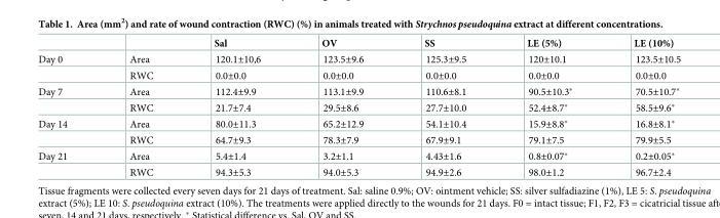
<table><thead><tr><td></td><td></td><td>Sal</td><td>OV</td><td>SS</td><td>LE (5%)</td><td>LE (10%)</td></tr></thead><tbody><tr><td rowspan="2">Day 0</td><td>Area</td><td>120.1±10,6</td><td>123.5±9.6</td><td>125.3±9.5</td><td>120±10.1</td><td>123.5±10.5</td></tr><tr><td>RWC</td><td>0.0±0.0</td><td>0.0±0.0</td><td>0.0±0.0</td><td>0.0±0.0</td><td>0.0±0.0</td></tr><tr><td rowspan="2">Day 7</td><td>Area</td><td>112.4±9.9</td><td>113.1±9.9</td><td>110.6±8.1</td><td>90.5±10.3*</td><td>70.5±10.7*</td></tr><tr><td>RWC</td><td>21.7±7.4</td><td>29.5±8.6</td><td>27.7±10.0</td><td>52.4±8.7*</td><td>58.5±9.6*</td></tr><tr><td rowspan="2">Day 14</td><td>Area</td><td>80.0±11.3</td><td>65.2±12.9</td><td>54.1±10.4</td><td>15.9±8.8*</td><td>16.8±8.1*</td></tr><tr><td>RWC</td><td>64.7±9.3</td><td>78.3±7.9</td><td>67.9±9.1</td><td>79.1±7.5</td><td>79.9±5.5</td></tr><tr><td rowspan="2">Day 21</td><td>Area</td><td>5.4±1.4</td><td>3.2±1.1</td><td>4.43±1.6</td><td>0.8±0.07*</td><td>0.2±0.05*</td></tr><tr><td>RWC</td><td>94.3±5.3</td><td>94.0±5.3</td><td>94.9±2.6</td><td>98.0±1.2</td><td>96.7±2.4</td></tr></tbody></table>